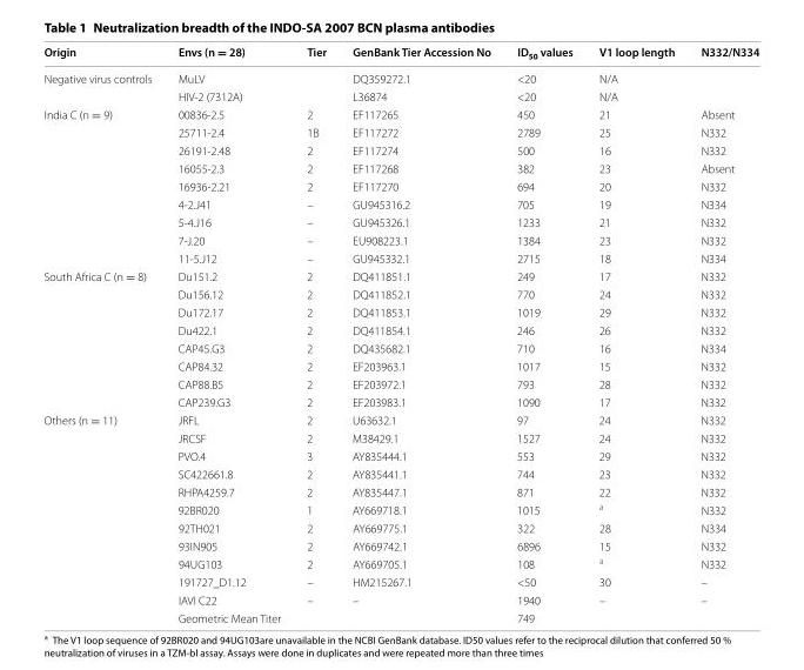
<table><thead><tr><td>Origin</td><td>Envs (n = 28)</td><td>Tier</td><td>GenBank Tier Accession No</td><td>ID<sub>50</sub> values</td><td>V1 loop length</td><td>N332/N334</td></tr></thead><tbody><tr><td rowspan="2">Negative virus controls</td><td>MuLV</td><td></td><td>DQ359272.1</td><td>&lt;20</td><td>N/A</td><td></td></tr><tr><td>HIV-2 (7312A)</td><td></td><td>L36874</td><td>&lt;20</td><td>N/A</td><td></td></tr><tr><td rowspan="9">India C (n = 9)</td><td>00836-2.5</td><td>2</td><td>EF117265</td><td>450</td><td>21</td><td>Absent</td></tr><tr><td>25711-2.4</td><td>1B</td><td>EF117272</td><td>2789</td><td>25</td><td>N332</td></tr><tr><td>26191-2.48</td><td>2</td><td>EF117274</td><td>500</td><td>16</td><td>N332</td></tr><tr><td>16055-2.3</td><td>2</td><td>EF117268</td><td>382</td><td>23</td><td>Absent</td></tr><tr><td>16936-2.21</td><td>2</td><td>EF117270</td><td>694</td><td>20</td><td>N332</td></tr><tr><td>4-2.J41</td><td>–</td><td>GU945316.2</td><td>705</td><td>19</td><td>N334</td></tr><tr><td>5-4.J16</td><td>–</td><td>GU945326.1</td><td>1233</td><td>21</td><td>N332</td></tr><tr><td>7-J.20</td><td>–</td><td>EU908223.1</td><td>1384</td><td>23</td><td>N332</td></tr><tr><td>11-5.J12</td><td>–</td><td>GU945332.1</td><td>2715</td><td>18</td><td>N334</td></tr><tr><td rowspan="8">South Africa C (n = 8)</td><td>Du151.2</td><td>2</td><td>DQ411851.1</td><td>249</td><td>17</td><td>N332</td></tr><tr><td>Du156.12</td><td>2</td><td>DQ411852.1</td><td>770</td><td>24</td><td>N332</td></tr><tr><td>Du172.17</td><td>2</td><td>DQ411853.1</td><td>1019</td><td>29</td><td>N332</td></tr><tr><td>Du422.1</td><td>2</td><td>DQ411854.1</td><td>246</td><td>26</td><td>N332</td></tr><tr><td>CAP45.G3</td><td>2</td><td>DQ435682.1</td><td>710</td><td>16</td><td>N334</td></tr><tr><td>CAP84.32</td><td>2</td><td>EF203963.1</td><td>1017</td><td>15</td><td>N332</td></tr><tr><td>CAP88.B5</td><td>2</td><td>EF203972.1</td><td>793</td><td>28</td><td>N332</td></tr><tr><td>CAP239.G3</td><td>2</td><td>EF203983.1</td><td>1090</td><td>17</td><td>N332</td></tr><tr><td rowspan="12">Others (n = 11)</td><td>JRFL</td><td>2</td><td>U63632.1</td><td>97</td><td>24</td><td>N332</td></tr><tr><td>JRCSF</td><td>2</td><td>M38429.1</td><td>1527</td><td>24</td><td>N332</td></tr><tr><td>PVO.4</td><td>3</td><td>AY835444.1</td><td>553</td><td>29</td><td>N332</td></tr><tr><td>SC422661.8</td><td>2</td><td>AY835441.1</td><td>744</td><td>23</td><td>N332</td></tr><tr><td>RHPA4259.7</td><td>2</td><td>AY835447.1</td><td>871</td><td>22</td><td>N332</td></tr><tr><td>92BR020</td><td>1</td><td>AY669718.1</td><td>1015</td><td><sup>a</sup></td><td>N332</td></tr><tr><td>92TH021</td><td>2</td><td>AY669775.1</td><td>322</td><td>28</td><td>N334</td></tr><tr><td>93IN905</td><td>2</td><td>AY669742.1</td><td>6896</td><td>15</td><td>N332</td></tr><tr><td>94UG103</td><td>2</td><td>AY669705.1</td><td>108</td><td><sup>a</sup></td><td>N332</td></tr><tr><td>191727_D1.12</td><td>–</td><td>HM215267.1</td><td>&lt;50</td><td>30</td><td>–</td></tr><tr><td>IAVI C22</td><td>–</td><td>–</td><td>1940</td><td>–</td><td>–</td></tr><tr><td colspan="3">Geometric Mean Titer</td><td>749</td><td></td><td></td></tr></tbody></table>